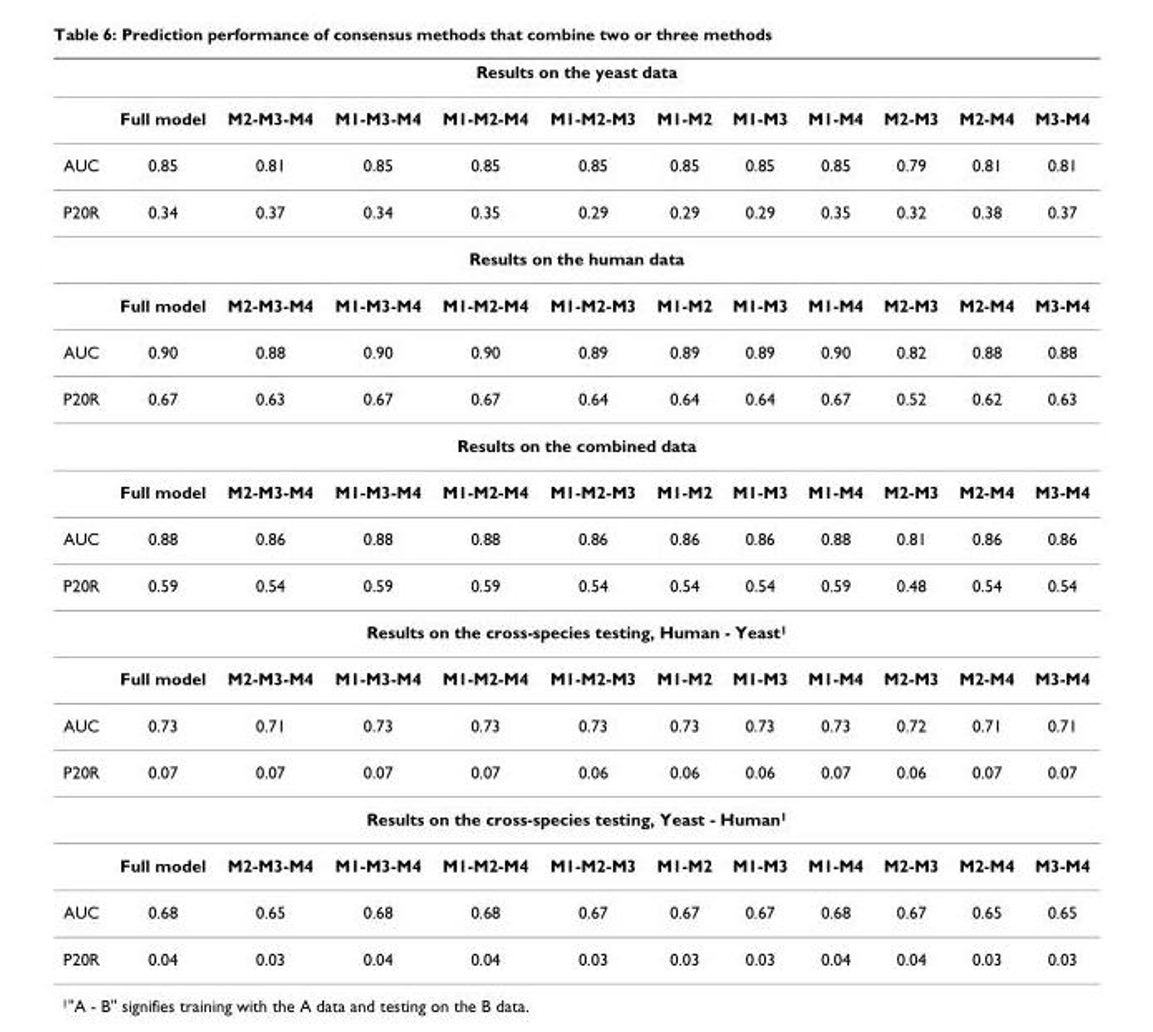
<table><thead><tr><td colspan="12">Results on the yeast data</td></tr><tr><td></td><td>Full model</td><td>M2-M3-M4</td><td>M1-M3-M4</td><td>M1-M2-M4</td><td>M1-M2-M3</td><td>M1-M2</td><td>M1-M3</td><td>M1-M4</td><td>M2-M3</td><td>M2-M4</td><td>M3-M4</td></tr></thead><tbody><tr><td>AUC</td><td>0.85</td><td>0.81</td><td>0.85</td><td>0.85</td><td>0.85</td><td>0.85</td><td>0.85</td><td>0.85</td><td>0.79</td><td>0.81</td><td>0.81</td></tr><tr><td>P20R</td><td>0.34</td><td>0.37</td><td>0.34</td><td>0.35</td><td>0.29</td><td>0.29</td><td>0.29</td><td>0.35</td><td>0.32</td><td>0.38</td><td>0.37</td></tr><tr><td colspan="12">Results on the human data</td></tr><tr><td></td><td>Full model</td><td>M2-M3-M4</td><td>M1-M3-M4</td><td>M1-M2-M4</td><td>M1-M2-M3</td><td>M1-M2</td><td>M1-M3</td><td>M1-M4</td><td>M2-M3</td><td>M2-M4</td><td>M3-M4</td></tr><tr><td>AUC</td><td>0.90</td><td>0.88</td><td>0.90</td><td>0.90</td><td>0.89</td><td>0.89</td><td>0.89</td><td>0.90</td><td>0.82</td><td>0.88</td><td>0.88</td></tr><tr><td>P20R</td><td>0.67</td><td>0.63</td><td>0.67</td><td>0.67</td><td>0.64</td><td>0.64</td><td>0.64</td><td>0.67</td><td>0.52</td><td>0.62</td><td>0.63</td></tr><tr><td colspan="12">Results on the combined data</td></tr><tr><td></td><td>Full model</td><td>M2-M3-M4</td><td>M1-M3-M4</td><td>M1-M2-M4</td><td>M1-M2-M3</td><td>M1-M2</td><td>M1-M3</td><td>M1-M4</td><td>M2-M3</td><td>M2-M4</td><td>M3-M4</td></tr><tr><td>AUC</td><td>0.88</td><td>0.86</td><td>0.88</td><td>0.88</td><td>0.86</td><td>0.86</td><td>0.86</td><td>0.88</td><td>0.81</td><td>0.86</td><td>0.86</td></tr><tr><td>P20R</td><td>0.59</td><td>0.54</td><td>0.59</td><td>0.59</td><td>0.54</td><td>0.54</td><td>0.54</td><td>0.59</td><td>0.48</td><td>0.54</td><td>0.54</td></tr><tr><td colspan="12">Results on the cross-species testing, Human - Yeast1</td></tr><tr><td></td><td>Full model</td><td>M2-M3-M4</td><td>M1-M3-M4</td><td>M1-M2-M4</td><td>M1-M2-M3</td><td>M1-M2</td><td>M1-M3</td><td>M1-M4</td><td>M2-M3</td><td>M2-M4</td><td>M3-M4</td></tr><tr><td>AUC</td><td>0.73</td><td>0.71</td><td>0.73</td><td>0.73</td><td>0.73</td><td>0.73</td><td>0.73</td><td>0.73</td><td>0.72</td><td>0.71</td><td>0.71</td></tr><tr><td>P20R</td><td>0.07</td><td>0.07</td><td>0.07</td><td>0.07</td><td>0.06</td><td>0.06</td><td>0.06</td><td>0.07</td><td>0.06</td><td>0.07</td><td>0.07</td></tr><tr><td colspan="12">Results on the cross-species testing, Yeast - Human1</td></tr><tr><td></td><td>Full model</td><td>M2-M3-M4</td><td>M1-M3-M4</td><td>M1-M2-M4</td><td>M1-M2-M3</td><td>M1-M2</td><td>M1-M3</td><td>M1-M4</td><td>M2-M3</td><td>M2-M4</td><td>M3-M4</td></tr><tr><td>AUC</td><td>0.68</td><td>0.65</td><td>0.68</td><td>0.68</td><td>0.67</td><td>0.67</td><td>0.67</td><td>0.68</td><td>0.67</td><td>0.65</td><td>0.65</td></tr><tr><td>P20R</td><td>0.04</td><td>0.03</td><td>0.04</td><td>0.04</td><td>0.03</td><td>0.03</td><td>0.03</td><td>0.04</td><td>0.04</td><td>0.03</td><td>0.03</td></tr></tbody></table>